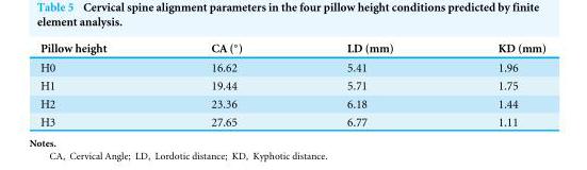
<table><thead><tr><td>Pillow height</td><td>CA (◦)</td><td>LD (mm)</td><td>KD (mm)</td></tr></thead><tbody><tr><td>H0</td><td>16.62</td><td>5.41</td><td>1.96</td></tr><tr><td>H1</td><td>19.44</td><td>5.71</td><td>1.75</td></tr><tr><td>H2</td><td>23.36</td><td>6.18</td><td>1.44</td></tr><tr><td>H3</td><td>27.65</td><td>6.77</td><td>1.11</td></tr></tbody></table>